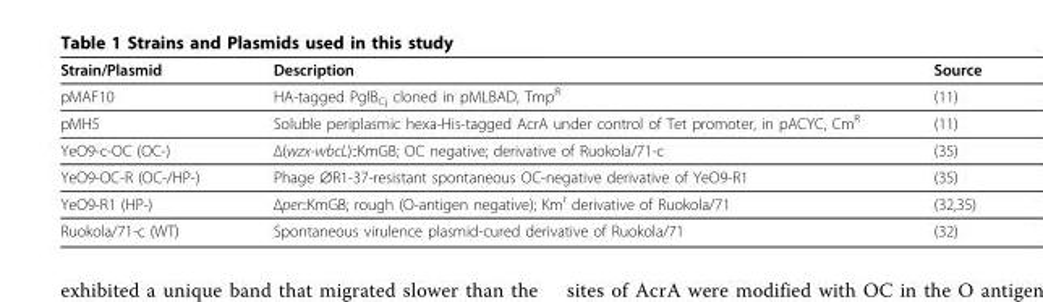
<table><thead><tr><td>Strain/Plasmid</td><td>Description</td><td>Source</td></tr></thead><tbody><tr><td>pMAF10</td><td>HA-tagged PglB<sub>Cj</sub> cloned in pMLBAD, Tmp<sup>R</sup></td><td>(11)</td></tr><tr><td>pMH5</td><td>Soluble periplasmic hexa-His-tagged AcrA under control of Tet promoter, in pACYC, Cm<sup>R</sup></td><td>(11)</td></tr><tr><td>YeO9-c-OC (OC-)</td><td>Δ(wzx-wbcL)::KmGB; OC negative; derivative of Ruokola/71-c</td><td>(35)</td></tr><tr><td>YeO9-OC-R (OC-/HP-)</td><td>Phage ∅R1-37-resistant spontaneous OC-negative derivative of YeO9-R1</td><td>(35)</td></tr><tr><td>YeO9-R1 (HP-)</td><td>Δper::KmGB; rough (O-antigen negative); Km<sup>r</sup> derivative of Ruokola/71</td><td>(32,35)</td></tr><tr><td>Ruokola/71-c (WT)</td><td>Spontaneous virulence plasmid-cured derivative of Ruokola/71</td><td>(32)</td></tr></tbody></table>